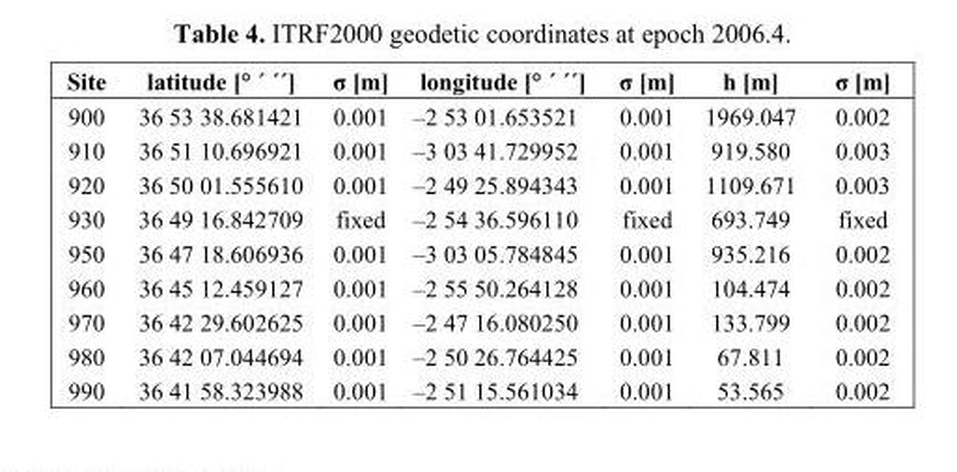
<table><thead><tr><td>Site</td><td>latitude [ ´ ´´]</td><td>σ [m]</td><td>longitude [ ´ ´´]</td><td>σ [m]</td><td>h [m]</td><td>σ [m]</td></tr></thead><tbody><tr><td>900</td><td>36 53 38.681421</td><td>0.001</td><td>–2 53 01.653521</td><td>0.001</td><td>1969.047</td><td>0.002</td></tr><tr><td>910</td><td>36 51 10.696921</td><td>0.001</td><td>–3 03 41.729952</td><td>0.001</td><td>919.580</td><td>0.003</td></tr><tr><td>920</td><td>36 50 01.555610</td><td>0.001</td><td>–2 49 25.894343</td><td>0.001</td><td>1109.671</td><td>0.003</td></tr><tr><td>930</td><td>36 49 16.842709</td><td>fixed</td><td>–2 54 36.596110</td><td>fixed</td><td>693.749</td><td>fixed</td></tr><tr><td>950</td><td>36 47 18.606936</td><td>0.001</td><td>–3 03 05.784845</td><td>0.001</td><td>935.216</td><td>0.002</td></tr><tr><td>960</td><td>36 45 12.459127</td><td>0.001</td><td>–2 55 50.264128</td><td>0.001</td><td>104.474</td><td>0.002</td></tr><tr><td>970</td><td>36 42 29.602625</td><td>0.001</td><td>–2 47 16.080250</td><td>0.001</td><td>133.799</td><td>0.002</td></tr><tr><td>980</td><td>36 42 07.044694</td><td>0.001</td><td>–2 50 26.764425</td><td>0.001</td><td>67.811</td><td>0.002</td></tr><tr><td>990</td><td>36 41 58.323988</td><td>0.001</td><td>–2 51 15.561034</td><td>0.001</td><td>53.565</td><td>0.002</td></tr></tbody></table>